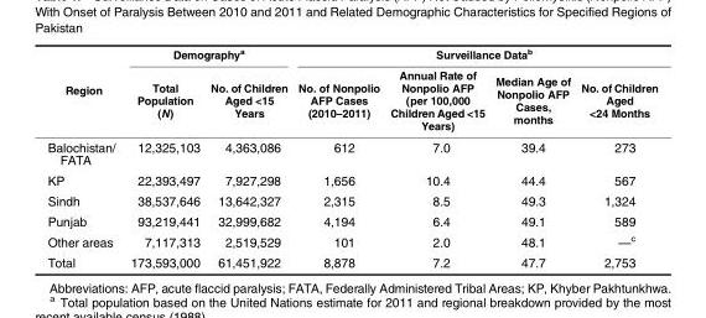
<table><thead><tr><td rowspan="2">Region</td><td colspan="2">Demography<sup>a</sup></td><td colspan="4">Surveillance Data<sup>b</sup></td></tr><tr><td>Total Population (N)</td><td>No. of Children Aged &lt;15 Years</td><td>No. of Nonpolio AFP Cases (2010–2011)</td><td>Annual Rate of Nonpolio AFP (per 100,000 Children Aged &lt;15 Years)</td><td>Median Age of Nonpolio AFP Cases, months</td><td>No. of Children Aged &lt;24 Months</td></tr></thead><tbody><tr><td>Balochistan/ FATA</td><td>12,325,103</td><td>4,363,086</td><td>612</td><td>7.0</td><td>39.4</td><td>273</td></tr><tr><td>KP</td><td>22,393,497</td><td>7,927,298</td><td>1,656</td><td>10.4</td><td>44.4</td><td>567</td></tr><tr><td>Sindh</td><td>38,537,646</td><td>13,642,327</td><td>2,315</td><td>8.5</td><td>49.3</td><td>1,324</td></tr><tr><td>Punjab</td><td>93,219,441</td><td>32,999,682</td><td>4,194</td><td>6.4</td><td>49.1</td><td>589</td></tr><tr><td>Other areas</td><td>7,117,313</td><td>2,519,529</td><td>101</td><td>2.0</td><td>48.1</td><td>—<sup>c</sup></td></tr><tr><td>Total</td><td>173,593,000</td><td>61,451,922</td><td>8,878</td><td>7.2</td><td>47.7</td><td>2,753</td></tr></tbody></table>